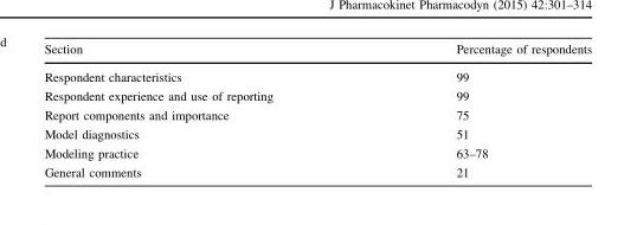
<table><thead><tr><td>Section</td><td>Percentage of respondents</td></tr></thead><tbody><tr><td>Respondent characteristics</td><td>99</td></tr><tr><td>Respondent experience and use of reporting</td><td>99</td></tr><tr><td>Report components and importance</td><td>75</td></tr><tr><td>Model diagnostics</td><td>51</td></tr><tr><td>Modeling practice</td><td>63–78</td></tr><tr><td>General comments</td><td>21</td></tr></tbody></table>